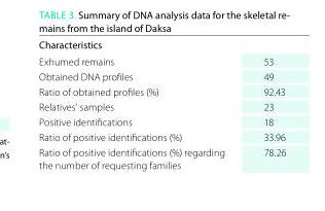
<table><thead><tr><td>Characteristics</td><td></td></tr></thead><tbody><tr><td>Exhumed remains</td><td>53</td></tr><tr><td>Obtained DNA profiles</td><td>49</td></tr><tr><td>Ratio of obtained profiles (%)</td><td>92.43</td></tr><tr><td>Relatives’ samples</td><td>23</td></tr><tr><td>Positive identifications</td><td>18</td></tr><tr><td>Ratio of positive identifications (%)</td><td>33.96</td></tr><tr><td>Ratio of positive identifications (%) regarding the number of requesting families</td><td>78.26</td></tr></tbody></table>